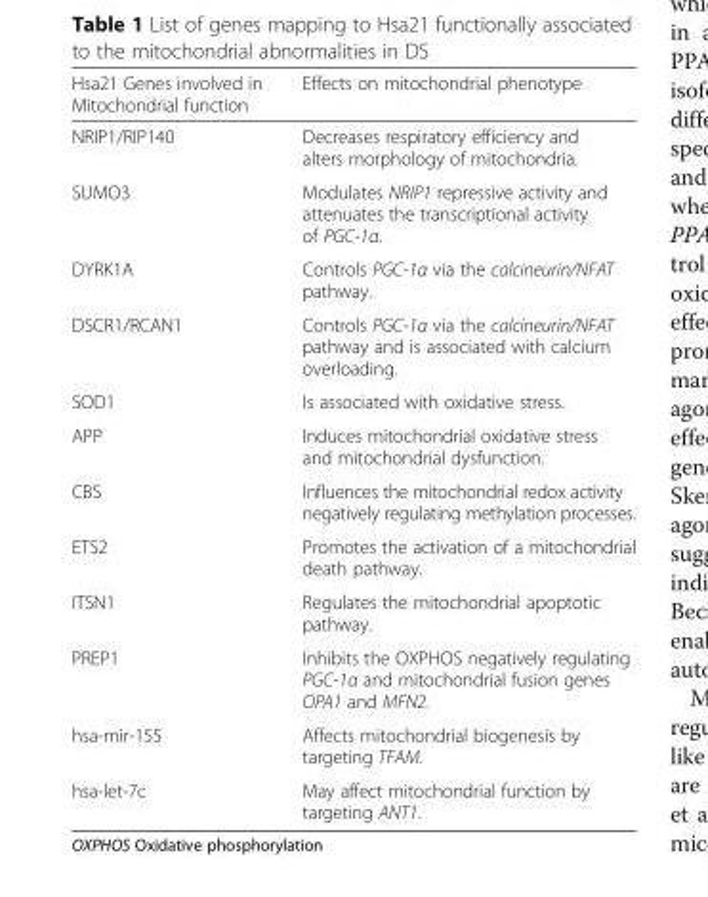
<table><thead><tr><td>Hsa21 Genes involved in Mitochondrial function</td><td>Effects on mitochondrial phenotype</td></tr></thead><tbody><tr><td>NRIP1/RIP140</td><td>Decreases respiratory efficiency and alters morphology of mitochondria.</td></tr><tr><td>SUMO3</td><td>Modulates NRIP1 repressive activity and attenuates the transcriptional activity of PGC-1α.</td></tr><tr><td>DYRK1A</td><td>Controls PGC-1α via the calcineurin/NFAT pathway.</td></tr><tr><td>DSCR1/RCAN1</td><td>Controls PGC-1α via the calcineurin/NFAT pathway and is associated with calcium overloading.</td></tr><tr><td>SOD1</td><td>Is associated with oxidative stress.</td></tr><tr><td>APP</td><td>Induces mitochondrial oxidative stress and mitochondrial dysfunction.</td></tr><tr><td>CBS</td><td>Influences the mitochondrial redox activity negatively regulating methylation processes.</td></tr><tr><td>ETS2</td><td>Promotes the activation of a mitochondrial death pathway.</td></tr><tr><td>ITSN1</td><td>Regulates the mitochondrial apoptotic pathway.</td></tr><tr><td>PREP1</td><td>Inhibits the OXPHOS negatively regulating PGC-1α and mitochondrial fusion genes OPA1 and MFN2.</td></tr><tr><td>hsa-mir-155</td><td>Affects mitochondrial biogenesis by targeting TFAM.</td></tr><tr><td>hsa-let-7c</td><td>May affect mitochondrial function by targeting ANT1.</td></tr></tbody></table>